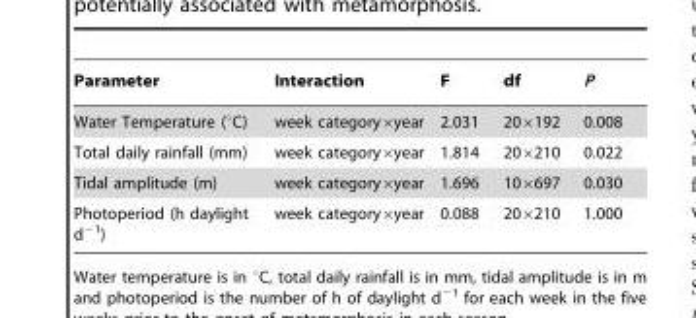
<table><thead><tr><td>Parameter</td><td>Interaction</td><td>F</td><td>df</td><td>P</td></tr></thead><tbody><tr><td>Water Temperature (°C)</td><td>week category×year</td><td>2.031</td><td>20×192</td><td>0.008</td></tr><tr><td>Total daily rainfall (mm)</td><td>week category×year</td><td>1.814</td><td>20×210</td><td>0.022</td></tr><tr><td>Tidal amplitude (m)</td><td>week category×year</td><td>1.696</td><td>10×697</td><td>0.030</td></tr><tr><td>Photoperiod (h daylight d<sup>−1</sup>)</td><td>week category×year</td><td>0.088</td><td>20×210</td><td>1.000</td></tr></tbody></table>